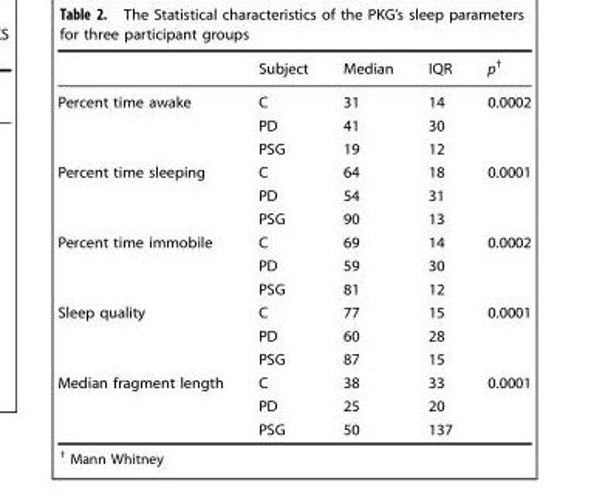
<table><thead><tr><td></td><td>Subject</td><td>Median</td><td>IQR</td><td>p<sup>†</sup></td></tr></thead><tbody><tr><td rowspan="3">Percent time awake</td><td>C</td><td>31</td><td>14</td><td>0.0002</td></tr><tr><td>PD</td><td>41</td><td>30</td><td></td></tr><tr><td>PSG</td><td>19</td><td>12</td><td></td></tr><tr><td rowspan="3">Percent time sleeping</td><td>C</td><td>64</td><td>18</td><td>0.0001</td></tr><tr><td>PD</td><td>54</td><td>31</td><td></td></tr><tr><td>PSG</td><td>90</td><td>13</td><td></td></tr><tr><td rowspan="3">Percent time immobile</td><td>C</td><td>69</td><td>14</td><td>0.0002</td></tr><tr><td>PD</td><td>59</td><td>30</td><td></td></tr><tr><td>PSG</td><td>81</td><td>12</td><td></td></tr><tr><td rowspan="3">Sleep quality</td><td>C</td><td>77</td><td>15</td><td>0.0001</td></tr><tr><td>PD</td><td>60</td><td>28</td><td></td></tr><tr><td>PSG</td><td>87</td><td>15</td><td></td></tr><tr><td rowspan="3">Median fragment length</td><td>C</td><td>38</td><td>33</td><td>0.0001</td></tr><tr><td>PD</td><td>25</td><td>20</td><td></td></tr><tr><td>PSG</td><td>50</td><td>137</td><td></td></tr></tbody></table>